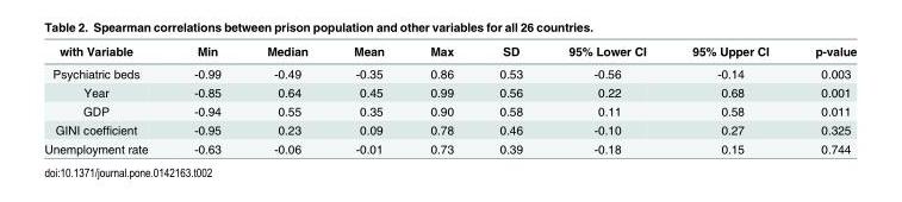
<table><thead><tr><td>with Variable</td><td>Min</td><td>Median</td><td>Mean</td><td>Max</td><td>SD</td><td>95% Lower CI</td><td>95% Upper CI</td><td>p-value</td></tr></thead><tbody><tr><td>Psychiatric beds</td><td>-0.99</td><td>-0.49</td><td>-0.35</td><td>0.86</td><td>0.53</td><td>-0.56</td><td>-0.14</td><td>0.003</td></tr><tr><td>Year</td><td>-0.85</td><td>0.64</td><td>0.45</td><td>0.99</td><td>0.56</td><td>0.22</td><td>0.68</td><td>0.001</td></tr><tr><td>GDP</td><td>-0.94</td><td>0.55</td><td>0.35</td><td>0.90</td><td>0.58</td><td>0.11</td><td>0.58</td><td>0.011</td></tr><tr><td>GINI coefficient</td><td>-0.95</td><td>0.23</td><td>0.09</td><td>0.78</td><td>0.46</td><td>-0.10</td><td>0.27</td><td>0.325</td></tr><tr><td>Unemployment rate</td><td>-0.63</td><td>-0.06</td><td>-0.01</td><td>0.73</td><td>0.39</td><td>-0.18</td><td>0.15</td><td>0.744</td></tr></tbody></table>